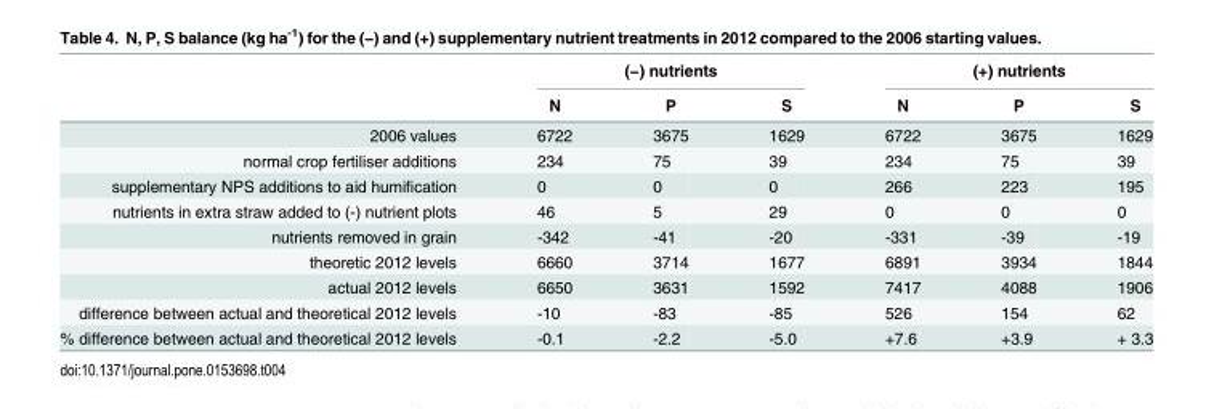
<table><thead><tr><td rowspan="2"></td><td colspan="3">(−) nutrients</td><td colspan="3">(+) nutrients</td></tr><tr><td>N</td><td>P</td><td>S</td><td>N</td><td>P</td><td>S</td></tr></thead><tbody><tr><td>2006 values</td><td>6722</td><td>3675</td><td>1629</td><td>6722</td><td>3675</td><td>1629</td></tr><tr><td>normal crop fertiliser additions</td><td>234</td><td>75</td><td>39</td><td>234</td><td>75</td><td>39</td></tr><tr><td>supplementary NPS additions to aid humification</td><td>0</td><td>0</td><td>0</td><td>266</td><td>223</td><td>195</td></tr><tr><td>nutrients in extra straw added to (-) nutrient plots</td><td>46</td><td>5</td><td>29</td><td>0</td><td>0</td><td>0</td></tr><tr><td>nutrients removed in grain</td><td>-342</td><td>-41</td><td>-20</td><td>-331</td><td>-39</td><td>-19</td></tr><tr><td>theoretic 2012 levels</td><td>6660</td><td>3714</td><td>1677</td><td>6891</td><td>3934</td><td>1844</td></tr><tr><td>actual 2012 levels</td><td>6650</td><td>3631</td><td>1592</td><td>7417</td><td>4088</td><td>1906</td></tr><tr><td>difference between actual and theoretical 2012 levels</td><td>-10</td><td>-83</td><td>-85</td><td>526</td><td>154</td><td>62</td></tr><tr><td>% difference between actual and theoretical 2012 levels</td><td>-0.1</td><td>-2.2</td><td>-5.0</td><td>+7.6</td><td>+3.9</td><td>+ 3.3</td></tr></tbody></table>